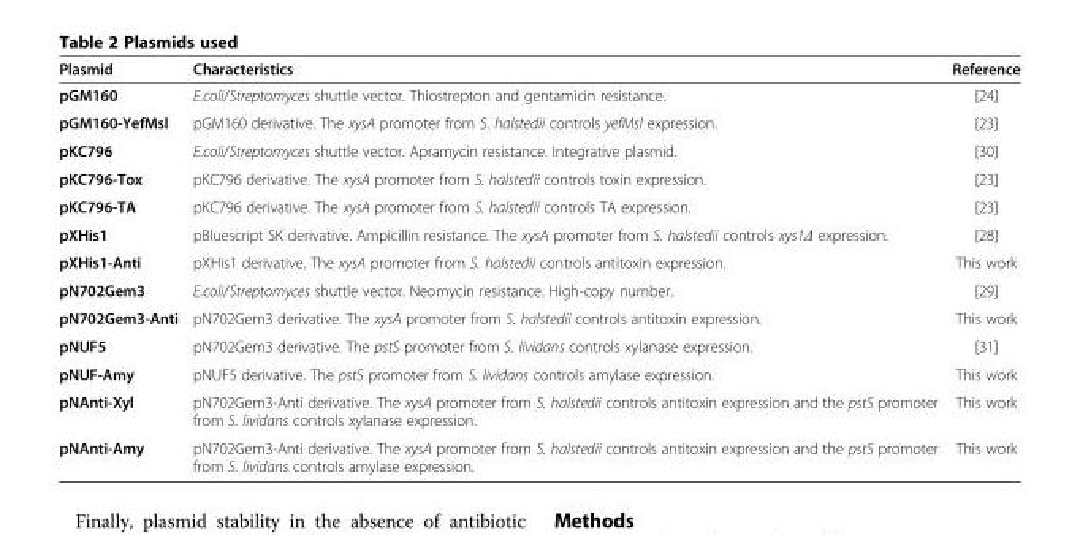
<table><thead><tr><td>Plasmid</td><td>Characteristics</td><td>Reference</td></tr></thead><tbody><tr><td>pGM160</td><td>E.coli/Streptomyces shuttle vector. Thiostrepton and gentamicin resistance.</td><td>[24]</td></tr><tr><td>pGM160-YefMsl</td><td>pGM160 derivative. The xysA promoter from S. halstedii controls yefMsl expression.</td><td>[23]</td></tr><tr><td>pKC796</td><td>E.coli/Streptomyces shuttle vector. Apramycin resistance. Integrative plasmid.</td><td>[30]</td></tr><tr><td>pKC796-Tox</td><td>pKC796 derivative. The xysA promoter from S. halstedii controls toxin expression.</td><td>[23]</td></tr><tr><td>pKC796-TA</td><td>pKC796 derivative. The xysA promoter from S. halstedii controls TA expression.</td><td>[23]</td></tr><tr><td>pXHis1</td><td>pBluescript SK derivative. Ampicillin resistance. The xysA promoter from S. halstedii controls xys1Δ expression.</td><td>[28]</td></tr><tr><td>pXHis1-Anti</td><td>pXHis1 derivative. The xysA promoter from S. halstedii controls antitoxin expression.</td><td>This work</td></tr><tr><td>pN702Gem3</td><td>E.coli/Streptomyces shuttle vector. Neomycin resistance. High-copy number.</td><td>[29]</td></tr><tr><td>pN702Gem3-Anti</td><td>pN702Gem3 derivative. The xysA promoter from S. halstedii controls antitoxin expression.</td><td>This work</td></tr><tr><td>pNUF5</td><td>pN702Gem3 derivative. The pstS promoter from S. lividans controls xylanase expression.</td><td>[31]</td></tr><tr><td>pNUF-Amy</td><td>pNUF5 derivative. The pstS promoter from S. lividans controls amylase expression.</td><td>This work</td></tr><tr><td>pNAnti-Xyl</td><td>pN702Gem3-Anti derivative. The xysA promoter from S. halstedii controls antitoxin expression and the pstS promoter from S. lividans controls xylanase expression.</td><td>This work</td></tr><tr><td>pNAnti-Amy</td><td>pN702Gem3-Anti derivative. The xysA promoter from S. halstedii controls antitoxin expression and the pstS promoter from S. lividans controls amylase expression.</td><td>This work</td></tr></tbody></table>